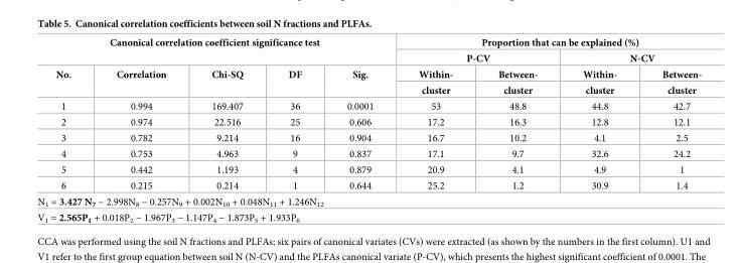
<table><thead><tr><td rowspan="2" colspan="5">Canonical correlation coefficient significance test</td><td colspan="4">Proportion that can be explained (%)</td></tr><tr><td colspan="2">P-CV</td><td colspan="2">N-CV</td></tr><tr><td rowspan="2">No.</td><td rowspan="2">Correlation</td><td rowspan="2">Chi-SQ</td><td rowspan="2">DF</td><td rowspan="2">Sig.</td><td rowspan="2">Within- cluster</td><td rowspan="2">Between- cluster</td><td rowspan="2">Within- cluster</td><td rowspan="2">Between- cluster</td></tr><tr></tr></thead><tbody><tr><td>1</td><td>0.994</td><td>169.407</td><td>36</td><td>0.0001</td><td>53</td><td>48.8</td><td>44.8</td><td>42.7</td></tr><tr><td>2</td><td>0.974</td><td>22.516</td><td>25</td><td>0.606</td><td>17.2</td><td>16.3</td><td>12.8</td><td>12.1</td></tr><tr><td>3</td><td>0.782</td><td>9.214</td><td>16</td><td>0.904</td><td>16.7</td><td>10.2</td><td>4.1</td><td>2.5</td></tr><tr><td>4</td><td>0.753</td><td>4.963</td><td>9</td><td>0.837</td><td>17.1</td><td>9.7</td><td>32.6</td><td>24.2</td></tr><tr><td>5</td><td>0.442</td><td>1.193</td><td>4</td><td>0.879</td><td>20.9</td><td>4.1</td><td>4.9</td><td>1</td></tr><tr><td>6</td><td>0.215</td><td>0.214</td><td>1</td><td>0.644</td><td>25.2</td><td>1.2</td><td>30.9</td><td>1.4</td></tr><tr><td colspan="9">N<sub>1</sub> = 3.427 N<sub>7</sub> − 2.998N<sub>8</sub> − 0.257N<sub>9</sub> + 0.002N<sub>10</sub> + 0.048N<sub>11</sub> + 1.246N<sub>12</sub></td></tr><tr><td colspan="9">V<sub>1</sub> = 2.565P<sub>1</sub> + 0.018P<sub>2</sub> − 1.967P<sub>3</sub> − 1.147P<sub>4</sub> − 1.873P<sub>5</sub> + 1.933P<sub>6</sub></td></tr></tbody></table>